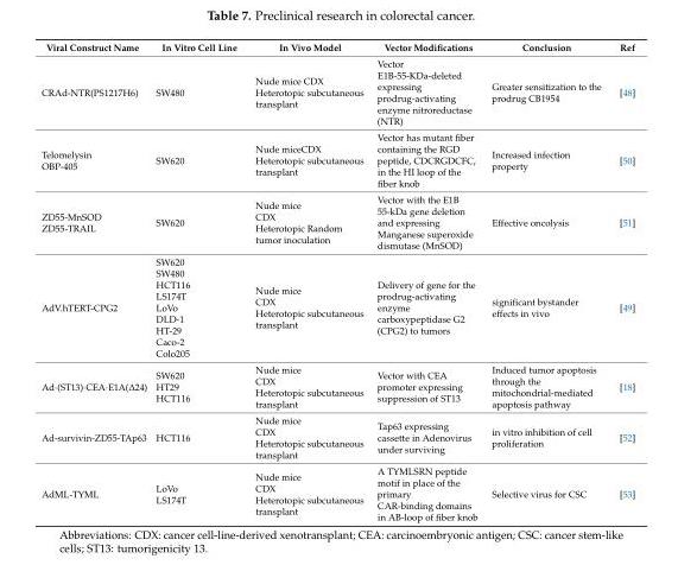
<table><thead><tr><td>Viral Construct Name</td><td>In Vitro Cell Line</td><td>In Vivo Model</td><td>Vector Modifications</td><td>Conclusion</td><td>Ref</td></tr></thead><tbody><tr><td>CRAd-NTR(PS1217H6)</td><td>SW480</td><td>Nude mice CDX Heterotopic subcutaneous transplant</td><td>Vector E1B-55-KDa-deleted expressing prodrug-activating enzyme nitroreductase (NTR)</td><td>Greater sensitization to the prodrug CB1954</td><td>[48]</td></tr><tr><td>Telomelysin OBP-405</td><td>SW620</td><td>Nude miceCDX Heterotopic subcutaneous transplant</td><td>Vector has mutant fiber containing the RGD peptide, CDCRGDCFC, in the HI loop of the fiber knob</td><td>Increased infection property</td><td>[50]</td></tr><tr><td>ZD55-MnSOD ZD55-TRAIL</td><td>SW620</td><td>Nude mice CDX Heterotopic Random tumor inoculation</td><td>Vector with the E1B 55-kDa gene deletion and expressing Manganese superoxide dismutase (MnSOD)</td><td>Effective oncolysis</td><td>[51]</td></tr><tr><td>AdV.hTERT-CPG2</td><td>SW620 SW480 HCT116 LS174T LoVo DLD-1 HT-29 Caco-2 Colo205</td><td>Nude mice CDX Heterotopic subcutaneous transplant</td><td>Delivery of gene for the prodrug-activating enzyme carboxypeptidase G2 (CPG2) to tumors</td><td>significant bystander effects in vivo</td><td>[49]</td></tr><tr><td>Ad·(ST13)·CEA·E1A(∆24)</td><td>SW620 HT29 HCT116</td><td>Nude mice CDX Heterotopic subcutaneous transplant</td><td>Vector with CEA promoter expressing suppression of ST13</td><td>Induced tumor apoptosis through the mitochondrial-mediated apoptosis pathway</td><td>[18]</td></tr><tr><td>Ad-survivin-ZD55-TAp63</td><td>HCT116</td><td>Nude mice CDX Heterotopic subcutaneous transplant</td><td>Tap63 expressing cassette in Adenovirus under surviving</td><td>in vitro inhibition of cell proliferation</td><td>[52]</td></tr><tr><td>AdML-TYML</td><td>LoVo LS174T</td><td>Nude mice CDX Heterotopic subcutaneous transplant</td><td>A TYMLSRN peptide motif in place of the primary CAR-binding domains in AB-loop of fiber knob</td><td>Selective virus for CSC</td><td>[53]</td></tr></tbody></table>